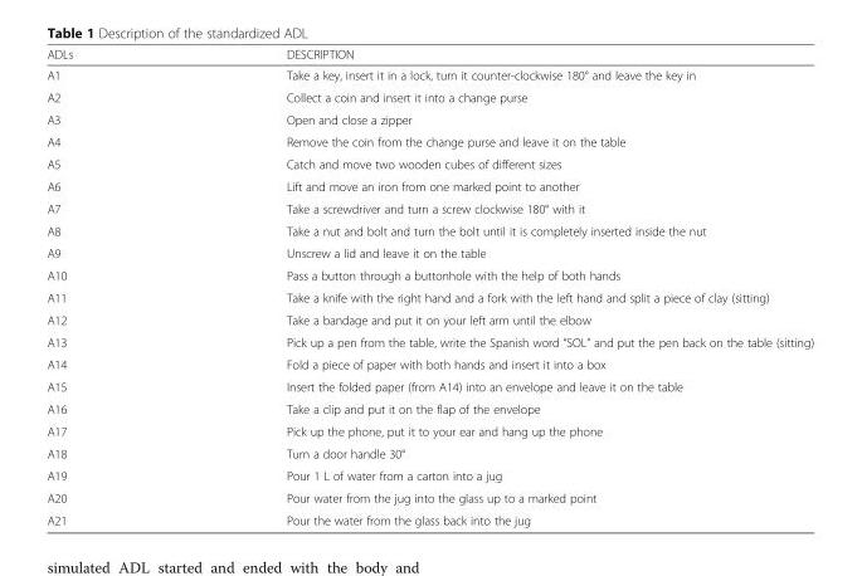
<table><thead><tr><td>ADLs</td><td>DESCRIPTION</td></tr></thead><tbody><tr><td>A1</td><td>Take a key, insert it in a lock, turn it counter-clockwise 180° and leave the key in</td></tr><tr><td>A2</td><td>Collect a coin and insert it into a change purse</td></tr><tr><td>A3</td><td>Open and close a zipper</td></tr><tr><td>A4</td><td>Remove the coin from the change purse and leave it on the table</td></tr><tr><td>A5</td><td>Catch and move two wooden cubes of different sizes</td></tr><tr><td>A6</td><td>Lift and move an iron from one marked point to another</td></tr><tr><td>A7</td><td>Take a screwdriver and turn a screw clockwise 180° with it</td></tr><tr><td>A8</td><td>Take a nut and bolt and turn the bolt until it is completely inserted inside the nut</td></tr><tr><td>A9</td><td>Unscrew a lid and leave it on the table</td></tr><tr><td>A10</td><td>Pass a button through a buttonhole with the help of both hands</td></tr><tr><td>A11</td><td>Take a knife with the right hand and a fork with the left hand and split a piece of clay (sitting)</td></tr><tr><td>A12</td><td>Take a bandage and put it on your left arm until the elbow</td></tr><tr><td>A13</td><td>Pick up a pen from the table, write the Spanish word “SOL” and put the pen back on the table (sitting)</td></tr><tr><td>A14</td><td>Fold a piece of paper with both hands and insert it into a box</td></tr><tr><td>A15</td><td>Insert the folded paper (from A14) into an envelope and leave it on the table</td></tr><tr><td>A16</td><td>Take a clip and put it on the flap of the envelope</td></tr><tr><td>A17</td><td>Pick up the phone, put it to your ear and hang up the phone</td></tr><tr><td>A18</td><td>Turn a door handle 30°</td></tr><tr><td>A19</td><td>Pour 1 L of water from a carton into a jug</td></tr><tr><td>A20</td><td>Pour water from the jug into the glass up to a marked point</td></tr><tr><td>A21</td><td>Pour the water from the glass back into the jug</td></tr></tbody></table>